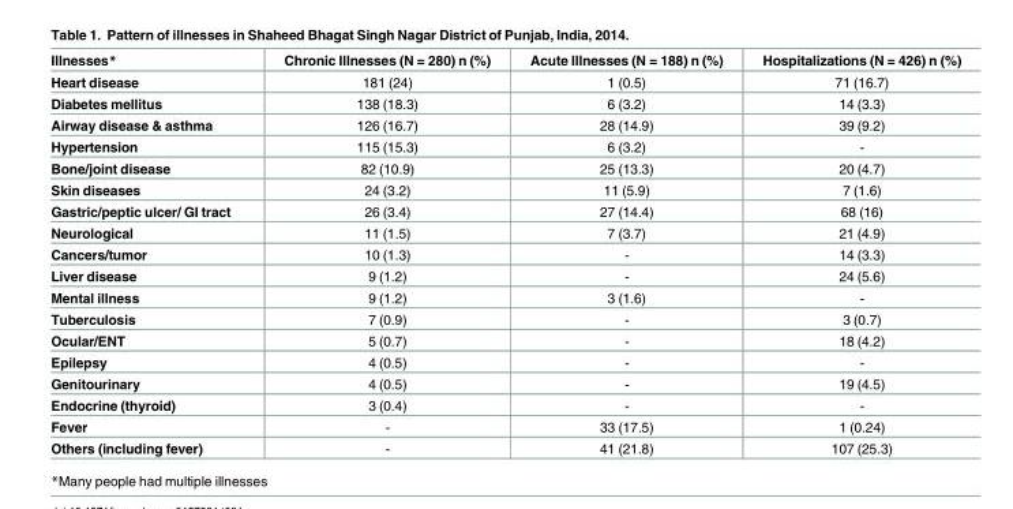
<table><thead><tr><td>Illnesses*</td><td>Chronic Illnesses (N = 280) n (%)</td><td>Acute Illnesses (N = 188) n (%)</td><td>Hospitalizations (N = 426) n (%)</td></tr></thead><tbody><tr><td>Heart disease</td><td>181 (24)</td><td>1 (0.5)</td><td>71 (16.7)</td></tr><tr><td>Diabetes mellitus</td><td>138 (18.3)</td><td>6 (3.2)</td><td>14 (3.3)</td></tr><tr><td>Airway disease &amp; asthma</td><td>126 (16.7)</td><td>28 (14.9)</td><td>39 (9.2)</td></tr><tr><td>Hypertension</td><td>115 (15.3)</td><td>6 (3.2)</td><td>-</td></tr><tr><td>Bone/joint disease</td><td>82 (10.9)</td><td>25 (13.3)</td><td>20 (4.7)</td></tr><tr><td>Skin diseases</td><td>24 (3.2)</td><td>11 (5.9)</td><td>7 (1.6)</td></tr><tr><td>Gastric/peptic ulcer/ GI tract</td><td>26 (3.4)</td><td>27 (14.4)</td><td>68 (16)</td></tr><tr><td>Neurological</td><td>11 (1.5)</td><td>7 (3.7)</td><td>21 (4.9)</td></tr><tr><td>Cancers/tumor</td><td>10 (1.3)</td><td>-</td><td>14 (3.3)</td></tr><tr><td>Liver disease</td><td>9 (1.2)</td><td>-</td><td>24 (5.6)</td></tr><tr><td>Mental illness</td><td>9 (1.2)</td><td>3 (1.6)</td><td>-</td></tr><tr><td>Tuberculosis</td><td>7 (0.9)</td><td>-</td><td>3 (0.7)</td></tr><tr><td>Ocular/ENT</td><td>5 (0.7)</td><td>-</td><td>18 (4.2)</td></tr><tr><td>Epilepsy</td><td>4 (0.5)</td><td>-</td><td>-</td></tr><tr><td>Genitourinary</td><td>4 (0.5)</td><td>-</td><td>19 (4.5)</td></tr><tr><td>Endocrine (thyroid)</td><td>3 (0.4)</td><td>-</td><td>-</td></tr><tr><td>Fever</td><td>-</td><td>33 (17.5)</td><td>1 (0.24)</td></tr><tr><td>Others (including fever)</td><td>-</td><td>41 (21.8)</td><td>107 (25.3)</td></tr></tbody></table>